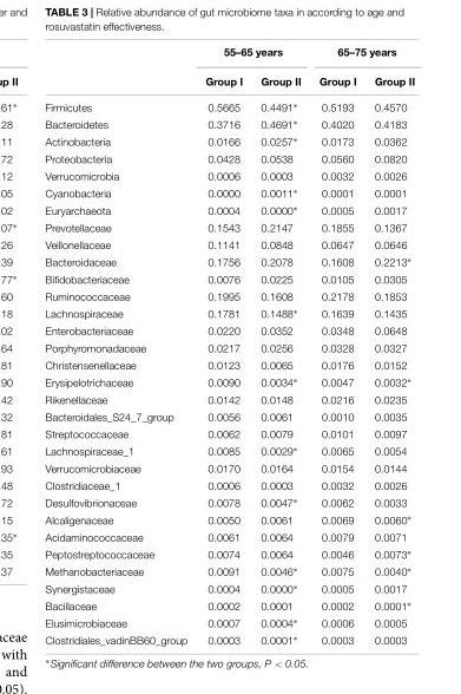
<table><thead><tr><td rowspan="2"></td><td colspan="2">55–65 years</td><td colspan="2">65–75 years</td></tr><tr><td>Group I</td><td>Group II</td><td>Group I</td><td>Group II</td></tr></thead><tbody><tr><td>Firmicutes</td><td>0.5665</td><td>0.4491∗</td><td>0.5193</td><td>0.4570</td></tr><tr><td>Bacteroidetes</td><td>0.3716</td><td>0.4691∗</td><td>0.4020</td><td>0.4183</td></tr><tr><td>Actinobacteria</td><td>0.0166</td><td>0.0257∗</td><td>0.0173</td><td>0.0362</td></tr><tr><td>Proteobacteria</td><td>0.0428</td><td>0.0538</td><td>0.0560</td><td>0.0820</td></tr><tr><td>Verrucomicrobia</td><td>0.0006</td><td>0.0003</td><td>0.0032</td><td>0.0026</td></tr><tr><td>Cyanobacteria</td><td>0.0000</td><td>0.0011∗</td><td>0.0001</td><td>0.0001</td></tr><tr><td>Euryarchaeota</td><td>0.0004</td><td>0.0000∗</td><td>0.0005</td><td>0.0017</td></tr><tr><td>Prevotellaceae</td><td>0.1543</td><td>0.2147</td><td>0.1855</td><td>0.1367</td></tr><tr><td>Veillonellaceae</td><td>0.1141</td><td>0.0848</td><td>0.0647</td><td>0.0646</td></tr><tr><td>Bacteroidaceae</td><td>0.1756</td><td>0.2078</td><td>0.1608</td><td>0.2213∗</td></tr><tr><td>Bifidobacteriaceae</td><td>0.0076</td><td>0.0225</td><td>0.0105</td><td>0.0305</td></tr><tr><td>Ruminococcaceae</td><td>0.1995</td><td>0.1608</td><td>0.2178</td><td>0.1853</td></tr><tr><td>Lachnospiraceae</td><td>0.1781</td><td>0.1488∗</td><td>0.1639</td><td>0.1435</td></tr><tr><td>Enterobacteriaceae</td><td>0.0220</td><td>0.0352</td><td>0.0348</td><td>0.0648</td></tr><tr><td>Porphyromonadaceae</td><td>0.0217</td><td>0.0256</td><td>0.0328</td><td>0.0327</td></tr><tr><td>Christensenellaceae</td><td>0.0123</td><td>0.0065</td><td>0.0176</td><td>0.0152</td></tr><tr><td>Erysipelotrichaceae</td><td>0.0090</td><td>0.0034∗</td><td>0.0047</td><td>0.0032∗</td></tr><tr><td>Rikenellaceae</td><td>0.0142</td><td>0.0148</td><td>0.0216</td><td>0.0235</td></tr><tr><td>Bacteroidales_S24_7_group</td><td>0.0056</td><td>0.0061</td><td>0.0010</td><td>0.0035</td></tr><tr><td>Streptococcaceae</td><td>0.0062</td><td>0.0079</td><td>0.0101</td><td>0.0097</td></tr><tr><td>Lachnospiraceae_1</td><td>0.0085</td><td>0.0029∗</td><td>0.0065</td><td>0.0054</td></tr><tr><td>Verrucomicrobiaceae</td><td>0.0170</td><td>0.0164</td><td>0.0154</td><td>0.0144</td></tr><tr><td>Clostridiaceae_1</td><td>0.0006</td><td>0.0003</td><td>0.0032</td><td>0.0026</td></tr><tr><td>Desulfovibrionaceae</td><td>0.0078</td><td>0.0047∗</td><td>0.0062</td><td>0.0033</td></tr><tr><td>Alcaligenaceae</td><td>0.0050</td><td>0.0061</td><td>0.0069</td><td>0.0060∗</td></tr><tr><td>Acidaminococcaceae</td><td>0.0061</td><td>0.0064</td><td>0.0079</td><td>0.0071</td></tr><tr><td>Peptostreptococcaceae</td><td>0.0074</td><td>0.0064</td><td>0.0046</td><td>0.0073∗</td></tr><tr><td>Methanobacteriaceae</td><td>0.0091</td><td>0.0046∗</td><td>0.0075</td><td>0.0040∗</td></tr><tr><td>Synergistaceae</td><td>0.0004</td><td>0.0000∗</td><td>0.0005</td><td>0.0017</td></tr><tr><td>Bacillaceae</td><td>0.0002</td><td>0.0001</td><td>0.0002</td><td>0.0001∗</td></tr><tr><td>Elusimicrobiaceae</td><td>0.0007</td><td>0.0004∗</td><td>0.0006</td><td>0.0005</td></tr><tr><td>Clostridiales_vadinBB60_group</td><td>0.0003</td><td>0.0001∗</td><td>0.0003</td><td>0.0003</td></tr></tbody></table>